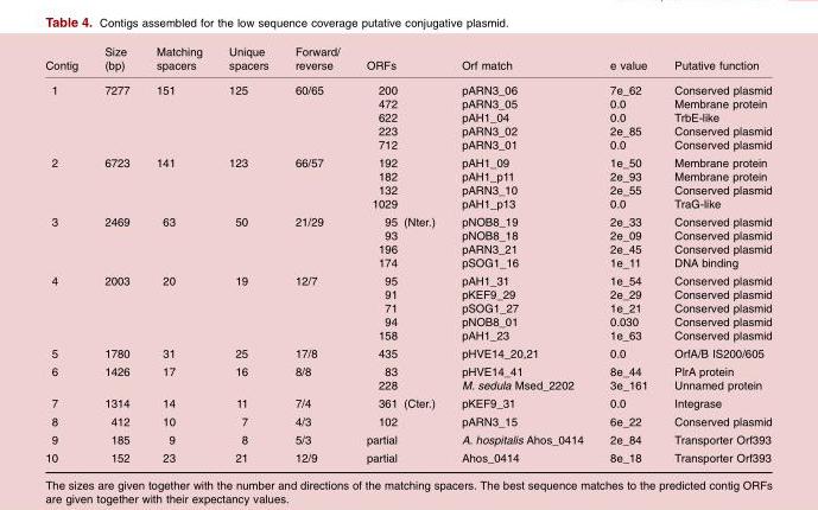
<table><thead><tr><td>Contig</td><td>Size (bp)</td><td>Matching spacers</td><td>Unique spacers</td><td>Forward/ reverse</td><td>ORFs</td><td>Orf match</td><td>e value</td><td>Putative function</td></tr></thead><tbody><tr><td rowspan="5">1</td><td rowspan="5">7277</td><td rowspan="5">151</td><td rowspan="5">125</td><td rowspan="5">60/65</td><td>200</td><td>pARN3_06</td><td>7e_62</td><td>Conserved plasmid</td></tr><tr><td>472</td><td>pARN3_05</td><td>0.0</td><td>Membrane protein</td></tr><tr><td>622</td><td>pAH1_04</td><td>0.0</td><td>TrbE-like</td></tr><tr><td>223</td><td>pARN3_02</td><td>2e_85</td><td>Conserved plasmid</td></tr><tr><td>712</td><td>pARN3_01</td><td>0.0</td><td>Conserved plasmid</td></tr><tr><td rowspan="4">2</td><td rowspan="4">6723</td><td rowspan="4">141</td><td rowspan="4">123</td><td rowspan="4">66/57</td><td>192</td><td>pAH1_09</td><td>1e_50</td><td>Membrane protein</td></tr><tr><td>182</td><td>pAH1_p11</td><td>2e_93</td><td>Membrane protein</td></tr><tr><td>132</td><td>pARN3_10</td><td>2e_55</td><td>Conserved plasmid</td></tr><tr><td>1029</td><td>pAH1_p13</td><td>0.0</td><td>TraG-like</td></tr><tr><td rowspan="4">3</td><td rowspan="4">2469</td><td rowspan="4">63</td><td rowspan="4">50</td><td rowspan="4">21/29</td><td>95 (Nter.)</td><td>pNOB8_19</td><td>2e_33</td><td>Conserved plasmid</td></tr><tr><td>93</td><td>pNOB8_18</td><td>2e_09</td><td>Conserved plasmid</td></tr><tr><td>196</td><td>pARN3_21</td><td>2e_45</td><td>Conserved plasmid</td></tr><tr><td>174</td><td>pSOG1_16</td><td>1e_11</td><td>DNA binding</td></tr><tr><td rowspan="5">4</td><td rowspan="5">2003</td><td rowspan="5">20</td><td rowspan="5">19</td><td rowspan="5">12/7</td><td>95</td><td>pAH1_31</td><td>1e_54</td><td>Conserved plasmid</td></tr><tr><td>91</td><td>pKEF9_29</td><td>2e_29</td><td>Conserved plasmid</td></tr><tr><td>71</td><td>pSOG1_27</td><td>1e_21</td><td>Conserved plasmid</td></tr><tr><td>94</td><td>pNOB8_01</td><td>0.030</td><td>Conserved plasmid</td></tr><tr><td>158</td><td>pAH1_23</td><td>1e_63</td><td>Conserved plasmid</td></tr><tr><td>5</td><td>1780</td><td>31</td><td>25</td><td>17/8</td><td>435</td><td>pHVE14_20,21</td><td>0.0</td><td>OrfA/B IS200/605</td></tr><tr><td rowspan="2">6</td><td rowspan="2">1426</td><td rowspan="2">17</td><td rowspan="2">16</td><td rowspan="2">8/8</td><td>83</td><td>pHVE14_41</td><td>8e_44</td><td>PlrA protein</td></tr><tr><td>228</td><td>M. sedula Msed_2202</td><td>3e_161</td><td>Unnamed protein</td></tr><tr><td>7</td><td>1314</td><td>14</td><td>11</td><td>7/4</td><td>361 (Cter.)</td><td>pKEF9_31</td><td>0.0</td><td>Integrase</td></tr><tr><td>8</td><td>412</td><td>10</td><td>7</td><td>4/3</td><td>102</td><td>pARN3_15</td><td>6e_22</td><td>Conserved plasmid</td></tr><tr><td>9</td><td>185</td><td>9</td><td>8</td><td>5/3</td><td>partial</td><td>A. hospitalis Ahos_0414</td><td>2e_84</td><td>Transporter Orf393</td></tr><tr><td>10</td><td>152</td><td>23</td><td>21</td><td>12/9</td><td>partial</td><td>Ahos_0414</td><td>8e_18</td><td>Transporter Orf393</td></tr></tbody></table>